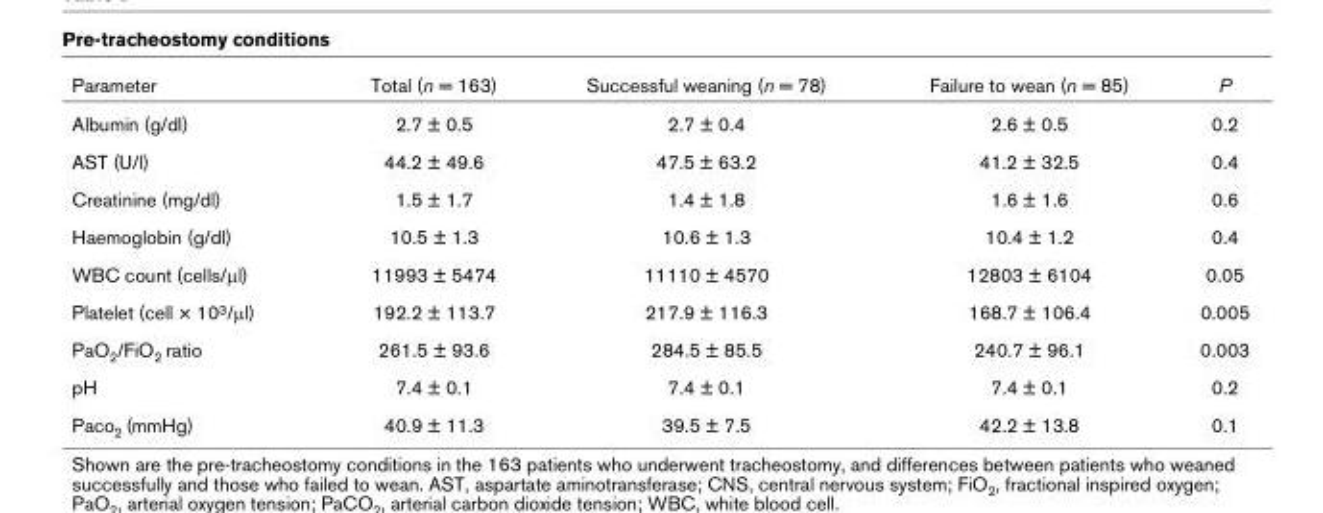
<table><thead><tr><td>Parameter</td><td>Total (n = 163)</td><td>Successful weaning (n = 78)</td><td>Failure to wean (n = 85)</td><td>P</td></tr></thead><tbody><tr><td>Albumin (g/dl)</td><td>2.7 ± 0.5</td><td>2.7 ± 0.4</td><td>2.6 ± 0.5</td><td>0.2</td></tr><tr><td>AST (U/l)</td><td>44.2 ± 49.6</td><td>47.5 ± 63.2</td><td>41.2 ± 32.5</td><td>0.4</td></tr><tr><td>Creatinine (mg/dl)</td><td>1.5 ± 1.7</td><td>1.4 ± 1.8</td><td>1.6 ± 1.6</td><td>0.6</td></tr><tr><td>Haemoglobin (g/dl)</td><td>10.5 ± 1.3</td><td>10.6 ± 1.3</td><td>10.4 ± 1.2</td><td>0.4</td></tr><tr><td>WBC count (cells/µl)</td><td>11993 ± 5474</td><td>11110 ± 4570</td><td>12803 ± 6104</td><td>0.05</td></tr><tr><td>Platelet (cell × 103/µl)</td><td>192.2 ± 113.7</td><td>217.9 ± 116.3</td><td>168.7 ± 106.4</td><td>0.005</td></tr><tr><td>PaO2/FiO2 ratio</td><td>261.5 ± 93.6</td><td>284.5 ± 85.5</td><td>240.7 ± 96.1</td><td>0.003</td></tr><tr><td>pH</td><td>7.4 ± 0.1</td><td>7.4 ± 0.1</td><td>7.4 ± 0.1</td><td>0.2</td></tr><tr><td>Paco2 (mmHg)</td><td>40.9 ± 11.3</td><td>39.5 ± 7.5</td><td>42.2 ± 13.8</td><td>0.1</td></tr></tbody></table>